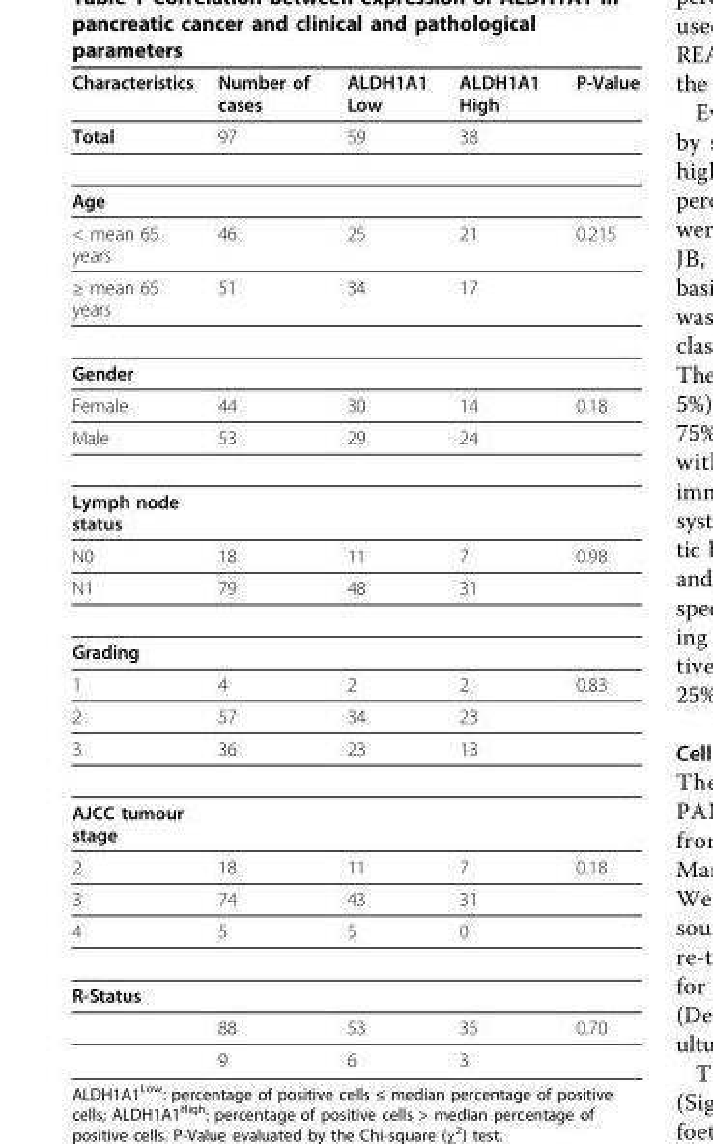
<table><thead><tr><td>Characteristics</td><td>Number of cases</td><td>ALDH1A1 Low</td><td>ALDH1A1 High</td><td>P-Value</td></tr></thead><tbody><tr><td>Total</td><td>97</td><td>59</td><td>38</td><td></td></tr><tr><td colspan="5">Age</td></tr><tr><td>&lt; mean 65 years</td><td>46</td><td>25</td><td>21</td><td>0.215</td></tr><tr><td>≥ mean 65 years</td><td>51</td><td>34</td><td>17</td><td></td></tr><tr><td colspan="5">Gender</td></tr><tr><td>Female</td><td>44</td><td>30</td><td>14</td><td>0.18</td></tr><tr><td>Male</td><td>53</td><td>29</td><td>24</td><td></td></tr><tr><td colspan="5">Lymph node status</td></tr><tr><td>N0</td><td>18</td><td>11</td><td>7</td><td>0.98</td></tr><tr><td>N1</td><td>79</td><td>48</td><td>31</td><td></td></tr><tr><td colspan="5">Grading</td></tr><tr><td>1</td><td>4</td><td>2</td><td>2</td><td>0.83</td></tr><tr><td>2</td><td>57</td><td>34</td><td>23</td><td></td></tr><tr><td>3</td><td>36</td><td>23</td><td>13</td><td></td></tr><tr><td colspan="5">AJCC tumour stage</td></tr><tr><td>2</td><td>18</td><td>11</td><td>7</td><td>0.18</td></tr><tr><td>3</td><td>74</td><td>43</td><td>31</td><td></td></tr><tr><td>4</td><td>5</td><td>5</td><td>0</td><td></td></tr><tr><td colspan="5">R-Status</td></tr><tr><td></td><td>88</td><td>53</td><td>35</td><td>0.70</td></tr><tr><td></td><td>9</td><td>6</td><td>3</td><td></td></tr></tbody></table>